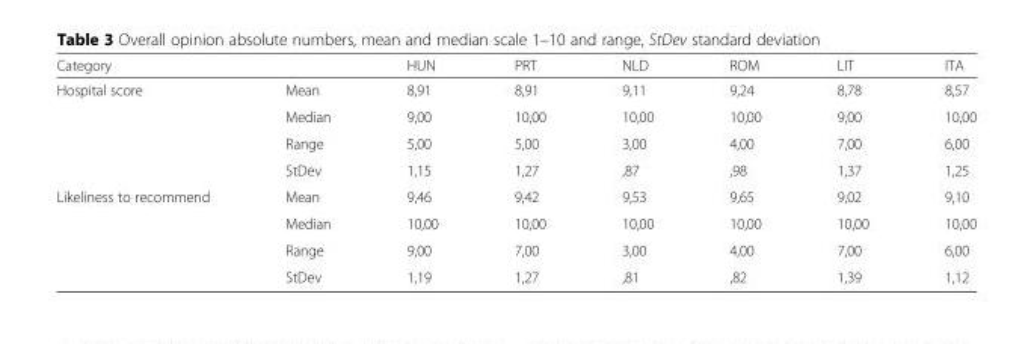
<table><thead><tr><td>Category</td><td></td><td>HUN</td><td>PRT</td><td>NLD</td><td>ROM</td><td>LIT</td><td>ITA</td></tr></thead><tbody><tr><td rowspan="4">Hospital score</td><td>Mean</td><td>8,91</td><td>8,91</td><td>9,11</td><td>9,24</td><td>8,78</td><td>8,57</td></tr><tr><td>Median</td><td>9,00</td><td>10,00</td><td>10,00</td><td>10,00</td><td>9,00</td><td>10,00</td></tr><tr><td>Range</td><td>5,00</td><td>5,00</td><td>3,00</td><td>4,00</td><td>7,00</td><td>6,00</td></tr><tr><td>StDev</td><td>1,15</td><td>1,27</td><td>,87</td><td>,98</td><td>1,37</td><td>1,25</td></tr><tr><td rowspan="4">Likeliness to recommend</td><td>Mean</td><td>9,46</td><td>9,42</td><td>9,53</td><td>9,65</td><td>9,02</td><td>9,10</td></tr><tr><td>Median</td><td>10,00</td><td>10,00</td><td>10,00</td><td>10,00</td><td>10,00</td><td>10,00</td></tr><tr><td>Range</td><td>9,00</td><td>7,00</td><td>3,00</td><td>4,00</td><td>7,00</td><td>6,00</td></tr><tr><td>StDev</td><td>1,19</td><td>1,27</td><td>,81</td><td>,82</td><td>1,39</td><td>1,12</td></tr></tbody></table>